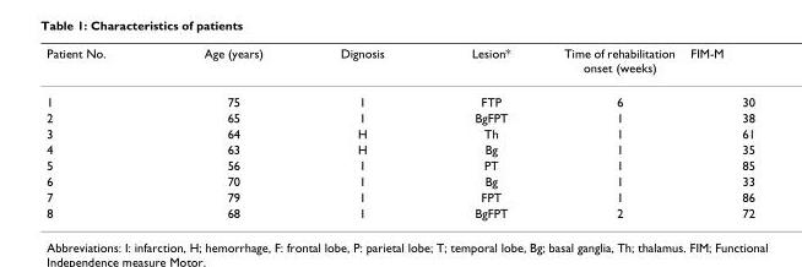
<table><thead><tr><td>Patient No.</td><td>Age (years)</td><td>Dignosis</td><td>Lesion*</td><td>Time of rehabilitation onset (weeks)</td><td>FIM-M</td></tr></thead><tbody><tr><td>1</td><td>75</td><td>I</td><td>FTP</td><td>6</td><td>30</td></tr><tr><td>2</td><td>65</td><td>I</td><td>BgFPT</td><td>1</td><td>38</td></tr><tr><td>3</td><td>64</td><td>H</td><td>Th</td><td>1</td><td>61</td></tr><tr><td>4</td><td>63</td><td>H</td><td>Bg</td><td>1</td><td>35</td></tr><tr><td>5</td><td>56</td><td>I</td><td>PT</td><td>1</td><td>85</td></tr><tr><td>6</td><td>70</td><td>I</td><td>Bg</td><td>1</td><td>33</td></tr><tr><td>7</td><td>79</td><td>I</td><td>FPT</td><td>1</td><td>86</td></tr><tr><td>8</td><td>68</td><td>I</td><td>BgFPT</td><td>2</td><td>72</td></tr></tbody></table>